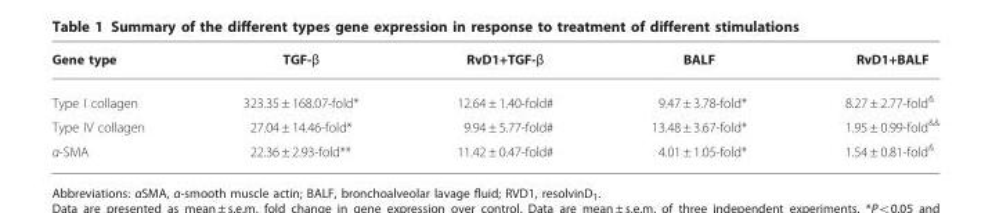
<table><thead><tr><td>Gene type</td><td>TGF-β</td><td>RvD1+TGF-β</td><td>BALF</td><td>RvD1+BALF</td></tr></thead><tbody><tr><td>Type I collagen</td><td>323.35 ± 168.07-fold*</td><td>12.64 ± 1.40-fold#</td><td>9.47 ± 3.78-fold*</td><td>8.27 ± 2.77-fold<sup>&amp;</sup></td></tr><tr><td>Type IV collagen</td><td>27.04 ± 14.46-fold*</td><td>9.94 ± 5.77-fold#</td><td>13.48 ± 3.67-fold*</td><td>1.95 ± 0.99-fold<sup>&amp;&amp;</sup></td></tr><tr><td>α-SMA</td><td>22.36 ± 2.93-fold**</td><td>11.42 ± 0.47-fold#</td><td>4.01 ± 1.05-fold*</td><td>1.54 ± 0.81-fold<sup>&amp;</sup></td></tr></tbody></table>